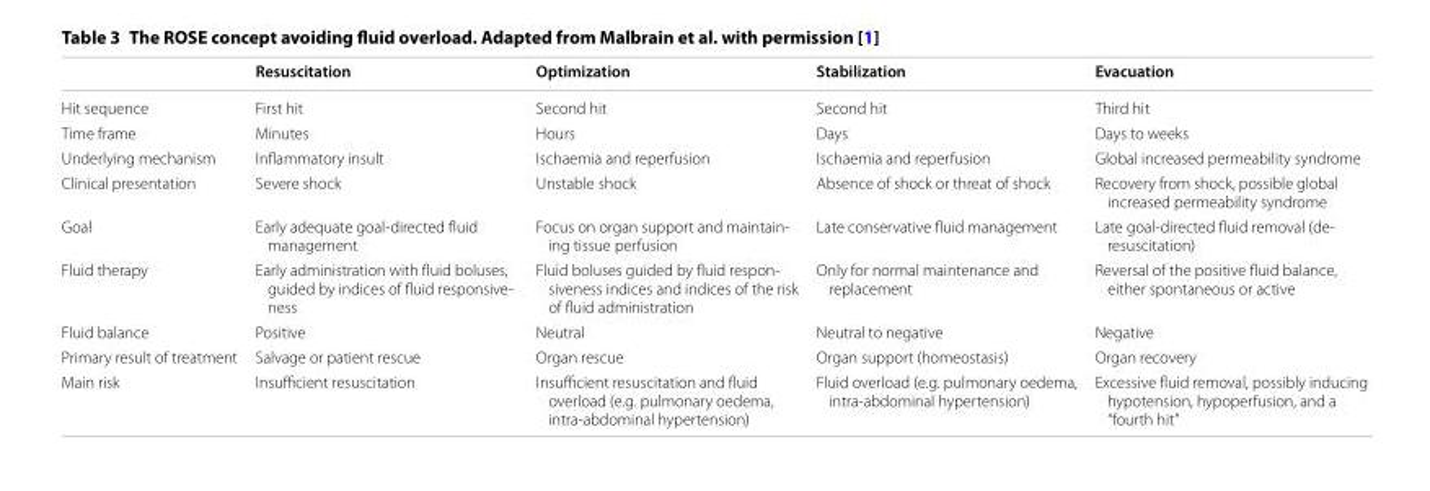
<table><thead><tr><td></td><td>Resuscitation</td><td>Optimization</td><td>Stabilization</td><td>Evacuation</td></tr></thead><tbody><tr><td>Hit sequence</td><td>First hit</td><td>Second hit</td><td>Second hit</td><td>Third hit</td></tr><tr><td>Time frame</td><td>Minutes</td><td>Hours</td><td>Days</td><td>Days to weeks</td></tr><tr><td>Underlying mechanism</td><td>Inflammatory insult</td><td>Ischaemia and reperfusion</td><td>Ischaemia and reperfusion</td><td>Global increased permeability syndrome</td></tr><tr><td>Clinical presentation</td><td>Severe shock</td><td>Unstable shock</td><td>Absence of shock or threat of shock</td><td>Recovery from shock, possible global increased permeability syndrome</td></tr><tr><td>Goal</td><td>Early adequate goal‑directed fluid management</td><td>Focus on organ support and maintain‑ ing tissue perfusion</td><td>Late conservative fluid management</td><td>Late goal‑directed fluid removal (de‑ resuscitation)</td></tr><tr><td>Fluid therapy</td><td>Early administration with fluid boluses, guided by indices of fluid responsive‑ ness</td><td>Fluid boluses guided by fluid respon‑ siveness indices and indices of the risk of fluid administration</td><td>Only for normal maintenance and replacement</td><td>Reversal of the positive fluid balance, either spontaneous or active</td></tr><tr><td>Fluid balance</td><td>Positive</td><td>Neutral</td><td>Neutral to negative</td><td>Negative</td></tr><tr><td>Primary result of treatment</td><td>Salvage or patient rescue</td><td>Organ rescue</td><td>Organ support (homeostasis)</td><td>Organ recovery</td></tr><tr><td>Main risk</td><td>Insufficient resuscitation</td><td>Insufficient resuscitation and fluid overload (e.g. pulmonary oedema, intra‑abdominal hypertension)</td><td>Fluid overload (e.g. pulmonary oedema, intra‑abdominal hypertension)</td><td>Excessive fluid removal, possibly inducing hypotension, hypoperfusion, and a “fourth hit”</td></tr></tbody></table>